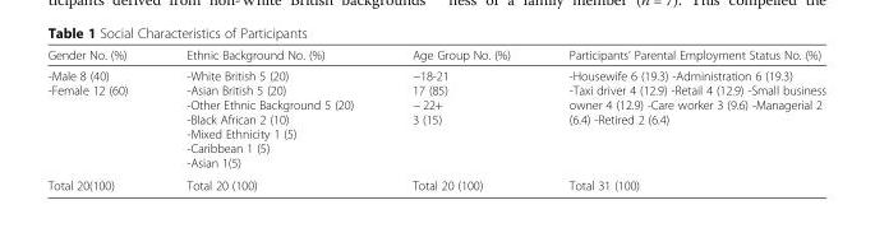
<table><thead><tr><td>Gender No. (%)</td><td>Ethnic Background No. (%)</td><td>Age Group No. (%)</td><td>Participants’ Parental Employment Status No. (%)</td></tr></thead><tbody><tr><td>-Male 8 (40) -Female 12 (60)</td><td>-White British 5 (20) -Asian British 5 (20) -Other Ethnic Background 5 (20) -Black African 2 (10) -Mixed Ethnicity 1 (5) -Caribbean 1 (5) -Asian 1(5)</td><td>−18-21 17 (85) − 22+ 3 (15)</td><td>-Housewife 6 (19.3) -Administration 6 (19.3) -Taxi driver 4 (12.9) -Retail 4 (12.9) -Small business owner 4 (12.9) -Care worker 3 (9.6) -Managerial 2 (6.4) -Retired 2 (6.4)</td></tr><tr><td>Total 20(100)</td><td>Total 20 (100)</td><td>Total 20 (100)</td><td>Total 31 (100)</td></tr></tbody></table>